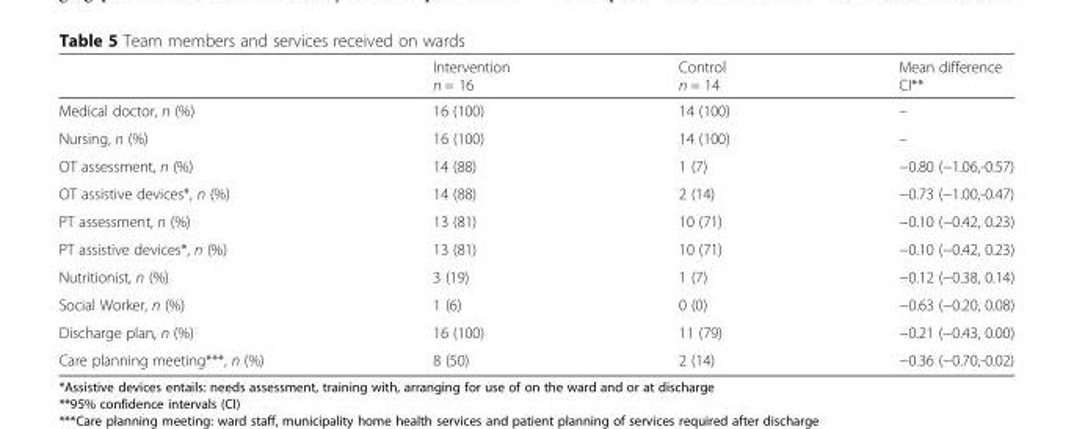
<table><thead><tr><td></td><td>Intervention n = 16</td><td>Control n = 14</td><td>Mean difference CI**</td></tr></thead><tbody><tr><td>Medical doctor, n (%)</td><td>16 (100)</td><td>14 (100)</td><td>–</td></tr><tr><td>Nursing, n (%)</td><td>16 (100)</td><td>14 (100)</td><td>–</td></tr><tr><td>OT assessment, n (%)</td><td>14 (88)</td><td>1 (7)</td><td>−0.80 (−1.06,-0.57)</td></tr><tr><td>OT assistive devices*, n (%)</td><td>14 (88)</td><td>2 (14)</td><td>−0.73 (−1.00,-0.47)</td></tr><tr><td>PT assessment, n (%)</td><td>13 (81)</td><td>10 (71)</td><td>−0.10 (−0.42, 0.23)</td></tr><tr><td>PT assistive devices*, n (%)</td><td>13 (81)</td><td>10 (71)</td><td>−0.10 (−0.42, 0.23)</td></tr><tr><td>Nutritionist, n (%)</td><td>3 (19)</td><td>1 (7)</td><td>−0.12 (−0.38, 0.14)</td></tr><tr><td>Social Worker, n (%)</td><td>1 (6)</td><td>0 (0)</td><td>−0.63 (−0.20, 0.08)</td></tr><tr><td>Discharge plan, n (%)</td><td>16 (100)</td><td>11 (79)</td><td>−0.21 (−0.43, 0.00)</td></tr><tr><td>Care planning meeting***, n (%)</td><td>8 (50)</td><td>2 (14)</td><td>−0.36 (−0.70,-0.02)</td></tr></tbody></table>